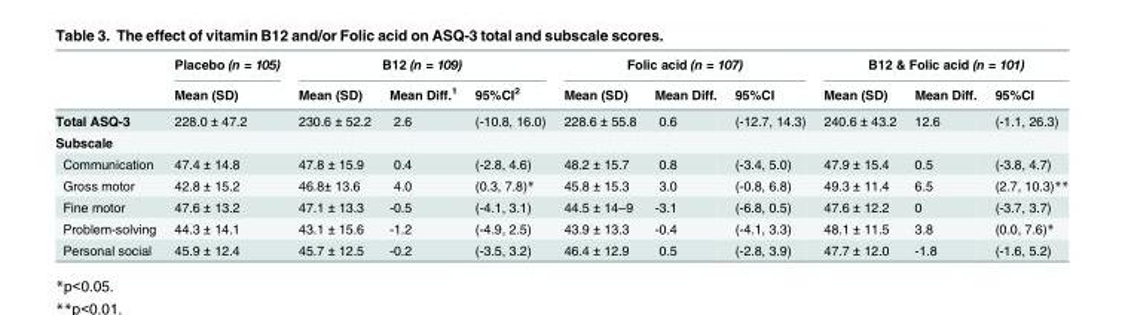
<table><thead><tr><td rowspan="2"></td><td rowspan="2">Placebo (n = 105) Mean (SD)</td><td colspan="3">B12 (n = 109)</td><td colspan="3">Folic acid (n = 107)</td><td colspan="3">B12 &amp; Folic acid (n = 101)</td></tr><tr><td>Mean (SD)</td><td>Mean Diff.<sup>1</sup></td><td>95%CI<sup>2</sup></td><td>Mean (SD)</td><td>Mean Diff.</td><td>95%CI</td><td>Mean (SD)</td><td>Mean Diff.</td><td>95%CI</td></tr></thead><tbody><tr><td>Total ASQ-3</td><td>228.0 ± 47.2</td><td>230.6 ± 52.2</td><td>2.6</td><td>(-10.8, 16.0)</td><td>228.6 ± 55.8</td><td>0.6</td><td>(-12.7, 14.3)</td><td>240.6 ± 43.2</td><td>12.6</td><td>(-1.1, 26.3)</td></tr><tr><td colspan="11">Subscale</td></tr><tr><td>Communication</td><td>47.4 ± 14.8</td><td>47.8 ± 15.9</td><td>0.4</td><td>(-2.8, 4.6)</td><td>48.2 ± 15.7</td><td>0.8</td><td>(-3.4, 5.0)</td><td>47.9 ± 15.4</td><td>0.5</td><td>(-3.8, 4.7)</td></tr><tr><td>Gross motor</td><td>42.8 ± 15.2</td><td>46.8± 13.6</td><td>4.0</td><td>(0.3, 7.8)*</td><td>45.8 ± 15.3</td><td>3.0</td><td>(-0.8, 6.8)</td><td>49.3 ± 11.4</td><td>6.5</td><td>(2.7, 10.3)**</td></tr><tr><td>Fine motor</td><td>47.6 ± 13.2</td><td>47.1 ± 13.3</td><td>-0.5</td><td>(-4.1, 3.1)</td><td>44.5 ± 14–9</td><td>-3.1</td><td>(-6.8, 0.5)</td><td>47.6 ± 12.2</td><td>0</td><td>(-3.7, 3.7)</td></tr><tr><td>Problem-solving</td><td>44.3 ± 14.1</td><td>43.1 ± 15.6</td><td>-1.2</td><td>(-4.9, 2.5)</td><td>43.9 ± 13.3</td><td>-0.4</td><td>(-4.1, 3.3)</td><td>48.1 ± 11.5</td><td>3.8</td><td>(0.0, 7.6)*</td></tr><tr><td>Personal social</td><td>45.9 ± 12.4</td><td>45.7 ± 12.5</td><td>-0.2</td><td>(-3.5, 3.2)</td><td>46.4 ± 12.9</td><td>0.5</td><td>(-2.8, 3.9)</td><td>47.7 ± 12.0</td><td>-1.8</td><td>(-1.6, 5.2)</td></tr></tbody></table>